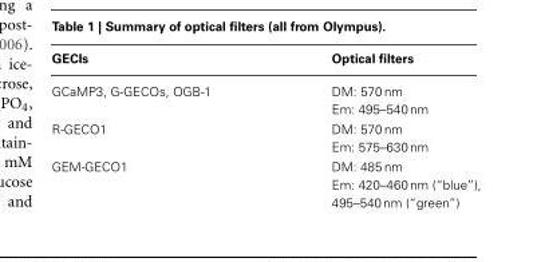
<table><thead><tr><td>GECIs</td><td>Optical filters</td></tr></thead><tbody><tr><td rowspan="2">GCaMP3, G-GECOs, OGB-1</td><td>DM: 570 nm</td></tr><tr><td>Em: 495–540nm</td></tr><tr><td rowspan="2">R-GECO1</td><td>DM: 570 nm</td></tr><tr><td>Em: 575–630nm</td></tr><tr><td rowspan="2">GEM-GECO1</td><td>DM: 485 nm</td></tr><tr><td>Em: 420–460nm (“blue”), 495–540nm (“green”)</td></tr></tbody></table>